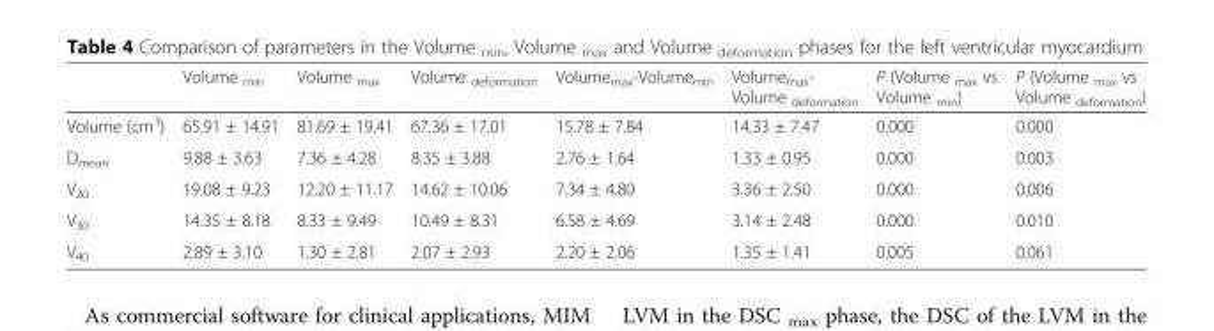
<table><thead><tr><td></td><td>Volume <sub>min</sub></td><td>Volume <sub>max</sub></td><td>Volume <sub>deformation</sub></td><td>Volume<sub>max</sub>-Volume<sub>min</sub></td><td>Volume<sub>max</sub>- Volume <sub>deformation</sub></td><td>P (Volume <sub>max</sub> vs Volume <sub>min</sub>)</td><td>P (Volume <sub>max</sub> vs Volume <sub>deformation</sub>)</td></tr></thead><tbody><tr><td>Volume (cm<sup>3</sup>)</td><td>65.91 ± 14.91</td><td>81.69 ± 19.41</td><td>67.36 ± 17.01</td><td>15.78 ± 7.84</td><td>14.33 ± 7.47</td><td>0.000</td><td>0.000</td></tr><tr><td>D<sub>mean</sub></td><td>9.88 ± 3.63</td><td>7.36 ± 4.28</td><td>8.35 ± 3.88</td><td>2.76 ± 1.64</td><td>1.33 ± 0.95</td><td>0.000</td><td>0.003</td></tr><tr><td>V<sub>20</sub></td><td>19.08 ± 9.23</td><td>12.20 ± 11.17</td><td>14.62 ± 10.06</td><td>7.34 ± 4.80</td><td>3.36 ± 2.50</td><td>0.000</td><td>0.006</td></tr><tr><td>V<sub>30</sub></td><td>14.35 ± 8.18</td><td>8.33 ± 9.49</td><td>10.49 ± 8.31</td><td>6.58 ± 4.69</td><td>3.14 ± 2.48</td><td>0.000</td><td>0.010</td></tr><tr><td>V<sub>40</sub></td><td>2.89 ± 3.10</td><td>1.30 ± 2.81</td><td>2.07 ± 2.93</td><td>2.20 ± 2.06</td><td>1.35 ± 1.41</td><td>0.005</td><td>0.061</td></tr></tbody></table>